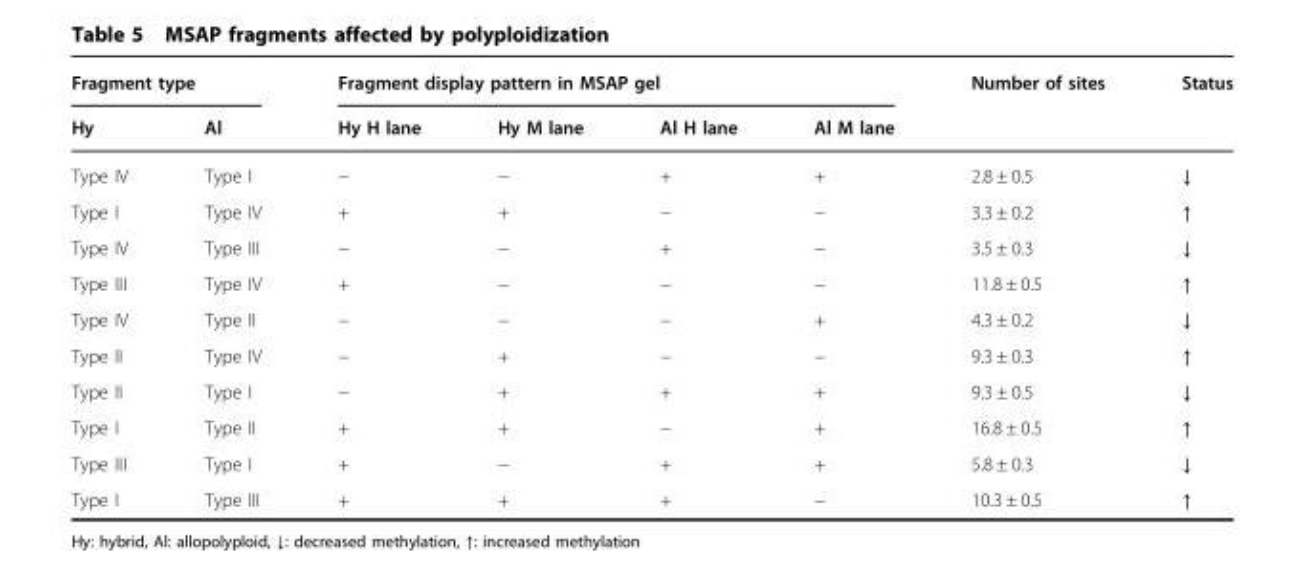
<table><thead><tr><td colspan="2">Fragment type</td><td colspan="4">Fragment display pattern in MSAP gel</td><td rowspan="2">Number of sites</td><td rowspan="2">Status</td></tr><tr><td>Hy</td><td>Al</td><td>Hy H lane</td><td>Hy M lane</td><td>Al H lane</td><td>Al M lane</td></tr></thead><tbody><tr><td>Type IV</td><td>Type I</td><td>−</td><td>−</td><td>+</td><td>+</td><td>2.8 ± 0.5</td><td>↓</td></tr><tr><td>Type I</td><td>Type IV</td><td>+</td><td>+</td><td>−</td><td>−</td><td>3.3 ± 0.2</td><td>↑</td></tr><tr><td>Type IV</td><td>Type III</td><td>−</td><td>−</td><td>+</td><td>−</td><td>3.5 ± 0.3</td><td>↓</td></tr><tr><td>Type III</td><td>Type IV</td><td>+</td><td>−</td><td>−</td><td>−</td><td>11.8 ± 0.5</td><td>↑</td></tr><tr><td>Type IV</td><td>Type II</td><td>−</td><td>−</td><td>−</td><td>+</td><td>4.3 ± 0.2</td><td>↓</td></tr><tr><td>Type II</td><td>Type IV</td><td>−</td><td>+</td><td>−</td><td>−</td><td>9.3 ± 0.3</td><td>↑</td></tr><tr><td>Type II</td><td>Type I</td><td>−</td><td>+</td><td>+</td><td>+</td><td>9.3 ± 0.5</td><td>↓</td></tr><tr><td>Type I</td><td>Type II</td><td>+</td><td>+</td><td>−</td><td>+</td><td>16.8 ± 0.5</td><td>↑</td></tr><tr><td>Type III</td><td>Type I</td><td>+</td><td>−</td><td>+</td><td>+</td><td>5.8 ± 0.3</td><td>↓</td></tr><tr><td>Type I</td><td>Type III</td><td>+</td><td>+</td><td>+</td><td>−</td><td>10.3 ± 0.5</td><td>↑</td></tr></tbody></table>